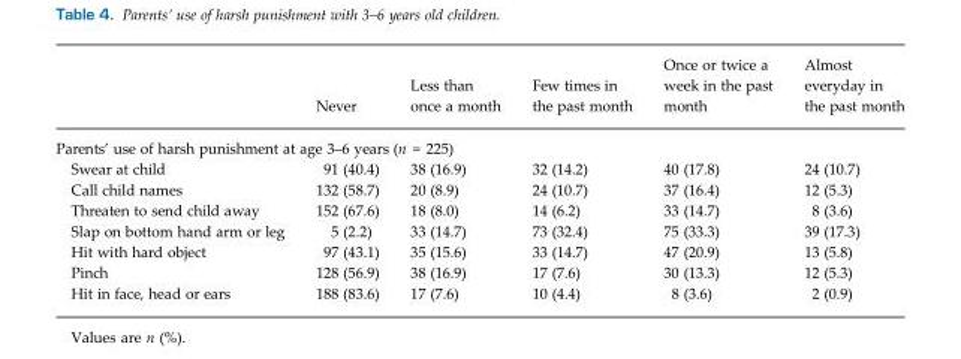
<table><thead><tr><td></td><td>Never</td><td>Less than once a month</td><td>Few times in the past month</td><td>Once or twice a week in the past month</td><td>Almost everyday in the past month</td></tr></thead><tbody><tr><td colspan="6">Parents’ use of harsh punishment at age 3–6 years (n = 225)</td></tr><tr><td>Swear at child</td><td>91 (40.4)</td><td>38 (16.9)</td><td>32 (14.2)</td><td>40 (17.8)</td><td>24 (10.7)</td></tr><tr><td>Call child names</td><td>132 (58.7)</td><td>20 (8.9)</td><td>24 (10.7)</td><td>37 (16.4)</td><td>12 (5.3)</td></tr><tr><td>Threaten to send child away</td><td>152 (67.6)</td><td>18 (8.0)</td><td>14 (6.2)</td><td>33 (14.7)</td><td>8 (3.6)</td></tr><tr><td>Slap on bottom hand arm or leg</td><td>5 (2.2)</td><td>33 (14.7)</td><td>73 (32.4)</td><td>75 (33.3)</td><td>39 (17.3)</td></tr><tr><td>Hit with hard object</td><td>97 (43.1)</td><td>35 (15.6)</td><td>33 (14.7)</td><td>47 (20.9)</td><td>13 (5.8)</td></tr><tr><td>Pinch</td><td>128 (56.9)</td><td>38 (16.9)</td><td>17 (7.6)</td><td>30 (13.3)</td><td>12 (5.3)</td></tr><tr><td>Hit in face, head or ears</td><td>188 (83.6)</td><td>17 (7.6)</td><td>10 (4.4)</td><td>8 (3.6)</td><td>2 (0.9)</td></tr></tbody></table>